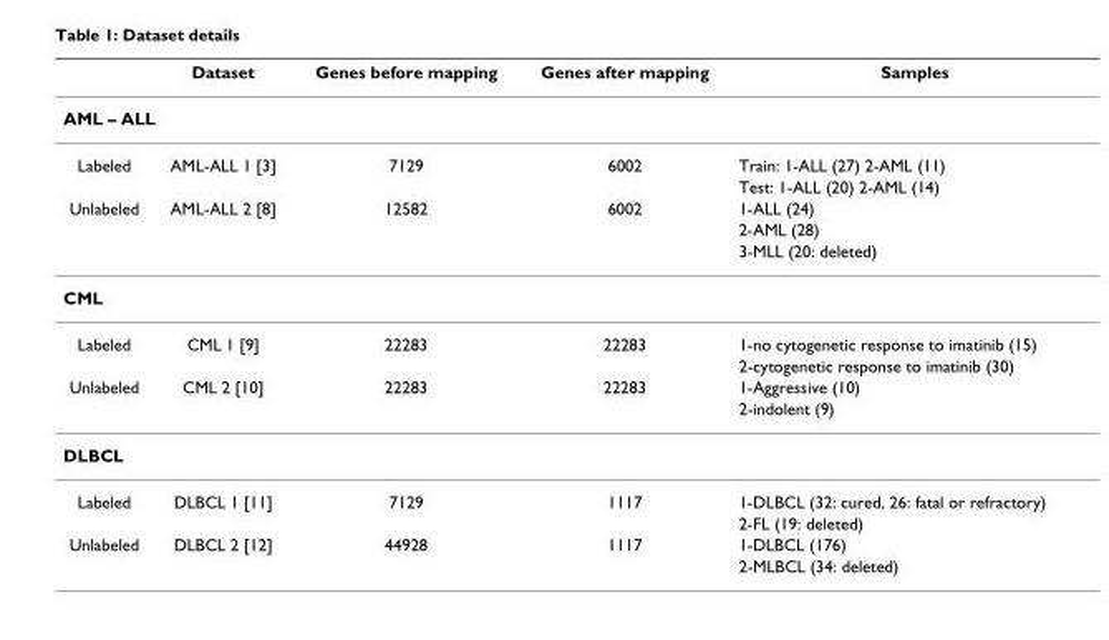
<table><thead><tr><td></td><td>Dataset</td><td>Genes before mapping</td><td>Genes after mapping</td><td>Samples</td></tr></thead><tbody><tr><td colspan="5">AML – ALL</td></tr><tr><td rowspan="2">Labeled</td><td>AML-ALL 1 [3]</td><td>7129</td><td>6002</td><td>Train: 1-ALL (27) 2-AML (11)</td></tr><tr><td></td><td></td><td></td><td>Test: 1-ALL (20) 2-AML (14)</td></tr><tr><td rowspan="3">Unlabeled</td><td>AML-ALL 2 [8]</td><td>12582</td><td>6002</td><td>1-ALL (24)</td></tr><tr><td></td><td></td><td></td><td>2-AML (28)</td></tr><tr><td></td><td></td><td></td><td>3-MLL (20: deleted)</td></tr><tr><td colspan="5">CML</td></tr><tr><td rowspan="2">Labeled</td><td>CML 1 [9]</td><td>22283</td><td>22283</td><td>1-no cytogenetic response to imatinib (15)</td></tr><tr><td></td><td></td><td></td><td>2-cytogenetic response to imatinib (30)</td></tr><tr><td rowspan="2">Unlabeled</td><td>CML 2 [10]</td><td>22283</td><td>22283</td><td>1-Aggressive (10)</td></tr><tr><td></td><td></td><td></td><td>2-indolent (9)</td></tr><tr><td colspan="5">DLBCL</td></tr><tr><td rowspan="2">Labeled</td><td>DLBCL 1 [11]</td><td>7129</td><td>1117</td><td>1-DLBCL (32: cured, 26: fatal or refractory)</td></tr><tr><td></td><td></td><td></td><td>2-FL (19: deleted)</td></tr><tr><td rowspan="2">Unlabeled</td><td>DLBCL 2 [12]</td><td>44928</td><td>1117</td><td>1-DLBCL (176)</td></tr><tr><td></td><td></td><td></td><td>2-MLBCL (34: deleted)</td></tr></tbody></table>